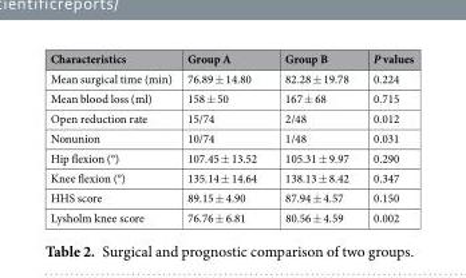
<table><thead><tr><td>Characteristics</td><td>Group A</td><td>Group B</td><td>P values</td></tr></thead><tbody><tr><td>Mean surgical time (min)</td><td>76.89 ± 14.80</td><td>82.28 ± 19.78</td><td>0.224</td></tr><tr><td>Mean blood loss (ml)</td><td>158 ± 50</td><td>167 ± 68</td><td>0.715</td></tr><tr><td>Open reduction rate</td><td>15/74</td><td>2/48</td><td>0.012</td></tr><tr><td>Nonunion</td><td>10/74</td><td>1/48</td><td>0.031</td></tr><tr><td>Hip flexion (°)</td><td>107.45 ± 13.52</td><td>105.31 ± 9.97</td><td>0.290</td></tr><tr><td>Knee flexion (°)</td><td>135.14 ± 14.64</td><td>138.13 ± 8.42</td><td>0.347</td></tr><tr><td>HHS score</td><td>89.15 ± 4.90</td><td>87.94 ± 4.57</td><td>0.150</td></tr><tr><td>Lysholm knee score</td><td>76.76 ± 6.81</td><td>80.56 ± 4.59</td><td>0.002</td></tr></tbody></table>